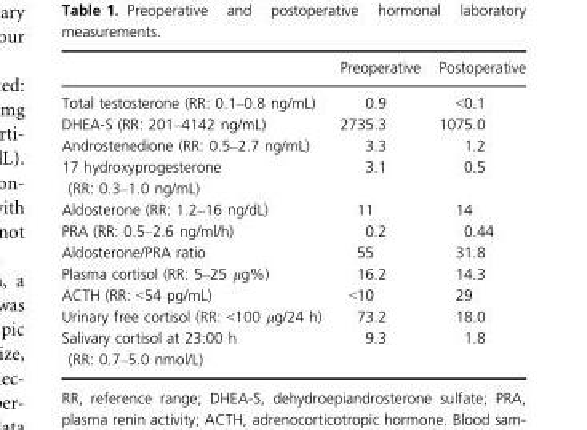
<table><thead><tr><td></td><td>Preoperative</td><td>Postoperative</td></tr></thead><tbody><tr><td>Total testosterone (RR: 0.1–0.8 ng/mL)</td><td>0.9</td><td>&lt;0.1</td></tr><tr><td>DHEA-S (RR: 201–4142 ng/mL)</td><td>2735.3</td><td>1075.0</td></tr><tr><td>Androstenedione (RR: 0.5–2.7 ng/mL)</td><td>3.3</td><td>1.2</td></tr><tr><td>17 hydroxyprogesterone (RR: 0.3–1.0 ng/mL)</td><td>3.1</td><td>0.5</td></tr><tr><td>Aldosterone (RR: 1.2–16 ng/dL)</td><td>11</td><td>14</td></tr><tr><td>PRA (RR: 0.5–2.6 ng/ml/h)</td><td>0.2</td><td>0.44</td></tr><tr><td>Aldosterone/PRA ratio</td><td>55</td><td>31.8</td></tr><tr><td>Plasma cortisol (RR: 5–25 μg%)</td><td>16.2</td><td>14.3</td></tr><tr><td>ACTH (RR: &lt;54 pg/mL)</td><td>&lt;10</td><td>29</td></tr><tr><td>Urinary free cortisol (RR: &lt;100 μg/24 h)</td><td>73.2</td><td>18.0</td></tr><tr><td>Salivary cortisol at 23:00 h (RR: 0.7–5.0 nmol/L)</td><td>9.3</td><td>1.8</td></tr></tbody></table>